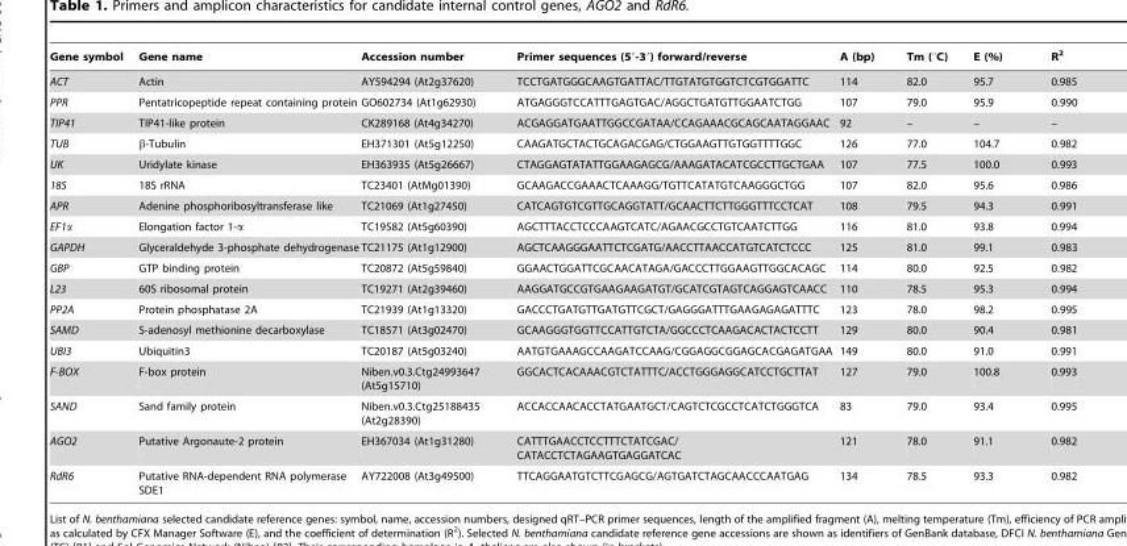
<table><thead><tr><td>Gene symbol</td><td>Gene name</td><td>Accession number</td><td>Primer sequences (5′-3′) forward/reverse</td><td>A (bp)</td><td>Tm (°C)</td><td>E (%)</td><td>R<sup>2</sup></td></tr></thead><tbody><tr><td>ACT</td><td>Actin</td><td>AY594294 (At2g37620)</td><td>TCCTGATGGGCAAGTGATTAC/TTGTATGTGGTCTCGTGGATTC</td><td>114</td><td>82.0</td><td>95.7</td><td>0.985</td></tr><tr><td>PPR</td><td>Pentatricopeptide repeat containing protein</td><td>GO602734 (At1g62930)</td><td>ATGAGGGTCCATTTGAGTGAC/AGGCTGATGTTGGAATCTGG</td><td>107</td><td>79.0</td><td>95.9</td><td>0.990</td></tr><tr><td>TIP41</td><td>TIP41-like protein</td><td>CK289168 (At4g34270)</td><td>ACGAGGATGAATTGGCCGATAA/CCAGAAACGCAGCAATAGGAAC</td><td>92</td><td>–</td><td>–</td><td>–</td></tr><tr><td>TUB</td><td>β-Tubulin</td><td>EH371301 (At5g12250)</td><td>CAAGATGCTACTGCAGACGAG/CTGGAAGTTGTGGTTTTGGC</td><td>126</td><td>77.0</td><td>104.7</td><td>0.982</td></tr><tr><td>UK</td><td>Uridylate kinase</td><td>EH363935 (At5g26667)</td><td>CTAGGAGTATATTGGAAGAGCG/AAAGATACATCGCCTTGCTGAA</td><td>107</td><td>77.5</td><td>100.0</td><td>0.993</td></tr><tr><td>18S</td><td>18S rRNA</td><td>TC23401 (AtMg01390)</td><td>GCAAGACCGAAACTCAAAGG/TGTTCATATGTCAAGGGCTGG</td><td>107</td><td>82.0</td><td>95.6</td><td>0.986</td></tr><tr><td>APR</td><td>Adenine phosphoribosyltransferase like</td><td>TC21069 (At1g27450)</td><td>CATCAGTGTCGTTGCAGGTATT/GCAACTTCTTGGGTTTCCTCAT</td><td>108</td><td>79.5</td><td>94.3</td><td>0.991</td></tr><tr><td>EF1α</td><td>Elongation factor 1-α</td><td>TC19582 (At5g60390)</td><td>AGCTTTACCTCCCAAGTCATC/AGAACGCCTGTCAATCTTGG</td><td>116</td><td>81.0</td><td>93.8</td><td>0.994</td></tr><tr><td>GAPDH</td><td>Glyceraldehyde 3-phosphate dehydrogenase</td><td>TC21175 (At1g12900)</td><td>AGCTCAAGGGAATTCTCGATG/AACCTTAACCATGTCATCTCCC</td><td>125</td><td>81.0</td><td>99.1</td><td>0.983</td></tr><tr><td>GBP</td><td>GTP binding protein</td><td>TC20872 (At5g59840)</td><td>GGAACTGGATTCGCAACATAGA/GACCCTTGGAAGTTGGCACAGC</td><td>114</td><td>80.0</td><td>92.5</td><td>0.982</td></tr><tr><td>L23</td><td>60S ribosomal protein</td><td>TC19271 (At2g39460)</td><td>AAGGATGCCGTGAAGAAGATGT/GCATCGTAGTCAGGAGTCAACC</td><td>110</td><td>78.5</td><td>95.3</td><td>0.994</td></tr><tr><td>PP2A</td><td>Protein phosphatase 2A</td><td>TC21939 (At1g13320)</td><td>GACCCTGATGTTGATGTTCGCT/GAGGGATTTGAAGAGAGATTTC</td><td>123</td><td>78.0</td><td>98.2</td><td>0.995</td></tr><tr><td>SAMD</td><td>S-adenosyl methionine decarboxylase</td><td>TC18571 (At3g02470)</td><td>GCAAGGGTGGTTCCATTGTCTA/GGCCCTCAAGACACTACTCCTT</td><td>129</td><td>80.0</td><td>90.4</td><td>0.981</td></tr><tr><td>UBI3</td><td>Ubiquitin3</td><td>TC20187 (At5g03240)</td><td>AATGTGAAAGCCAAGATCCAAG/CGGAGGCGGAGCACGAGATGAA</td><td>149</td><td>80.0</td><td>91.0</td><td>0.991</td></tr><tr><td>F-BOX</td><td>F-box protein</td><td>Niben.v0.3.Ctg24993647 (At5g15710)</td><td>GGCACTCACAAACGTCTATTTC/ACCTGGGAGGCATCCTGCTTAT</td><td>127</td><td>79.0</td><td>100.8</td><td>0.993</td></tr><tr><td>SAND</td><td>Sand family protein</td><td>Niben.v0.3.Ctg25188435 (At2g28390)</td><td>ACCACCAACACCTATGAATGCT/CAGTCTCGCCTCATCTGGGTCA</td><td>83</td><td>79.0</td><td>93.4</td><td>0.995</td></tr><tr><td>AGO2</td><td>Putative Argonaute-2 protein</td><td>EH367034 (At1g31280)</td><td>CATTTGAACCTCCTTTCTATCGAC/ CATACCTCTAGAAGTGAGGATCAC</td><td>121</td><td>78.0</td><td>91.1</td><td>0.982</td></tr><tr><td>RdR6</td><td>Putative RNA-dependent RNA polymerase SDE1</td><td>AY722008 (At3g49500)</td><td>TTCAGGAATGTCTTCGAGCG/AGTGATCTAGCAACCCAATGAG</td><td>134</td><td>78.5</td><td>93.3</td><td>0.982</td></tr></tbody></table>